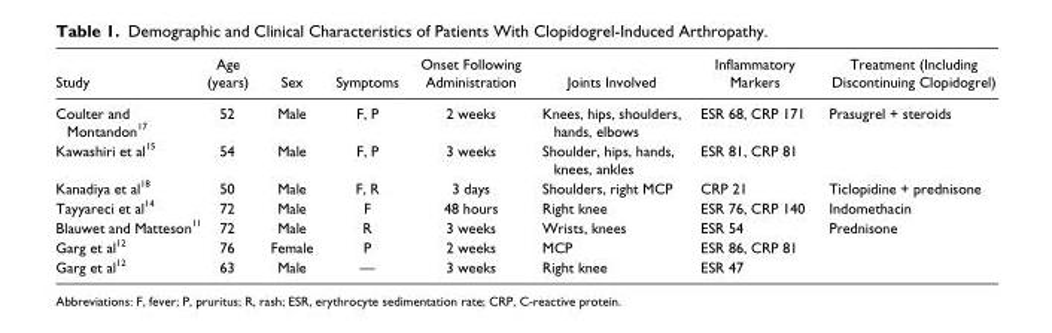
<table><thead><tr><td>Study</td><td>Age (years)</td><td>Sex</td><td>Symptoms</td><td>Onset Following Administration</td><td>Joints Involved</td><td>Inflammatory Markers</td><td>Treatment (Including Discontinuing Clopidogrel)</td></tr></thead><tbody><tr><td>Coulter and Montandon<sup>17</sup></td><td>52</td><td>Male</td><td>F, P</td><td>2 weeks</td><td>Knees, hips, shoulders, hands, elbows</td><td>ESR 68, CRP 171</td><td>Prasugrel + steroids</td></tr><tr><td>Kawashiri et al<sup>15</sup></td><td>54</td><td>Male</td><td>F, P</td><td>3 weeks</td><td>Shoulder, hips, hands, knees, ankles</td><td>ESR 81, CRP 81</td><td></td></tr><tr><td>Kanadiya et al<sup>18</sup></td><td>50</td><td>Male</td><td>F, R</td><td>3 days</td><td>Shoulders, right MCP</td><td>CRP 21</td><td>Ticlopidine + prednisone</td></tr><tr><td>Tayyareci et al<sup>14</sup></td><td>72</td><td>Male</td><td>F</td><td>48 hours</td><td>Right knee</td><td>ESR 76, CRP 140</td><td>Indomethacin</td></tr><tr><td>Blauwet and Matteson<sup>11</sup></td><td>72</td><td>Male</td><td>R</td><td>3 weeks</td><td>Wrists, knees</td><td>ESR 54</td><td>Prednisone</td></tr><tr><td>Garg et al<sup>12</sup></td><td>76</td><td>Female</td><td>P</td><td>2 weeks</td><td>MCP</td><td>ESR 86, CRP 81</td><td></td></tr><tr><td>Garg et al<sup>12</sup></td><td>63</td><td>Male</td><td>—</td><td>3 weeks</td><td>Right knee</td><td>ESR 47</td><td></td></tr></tbody></table>